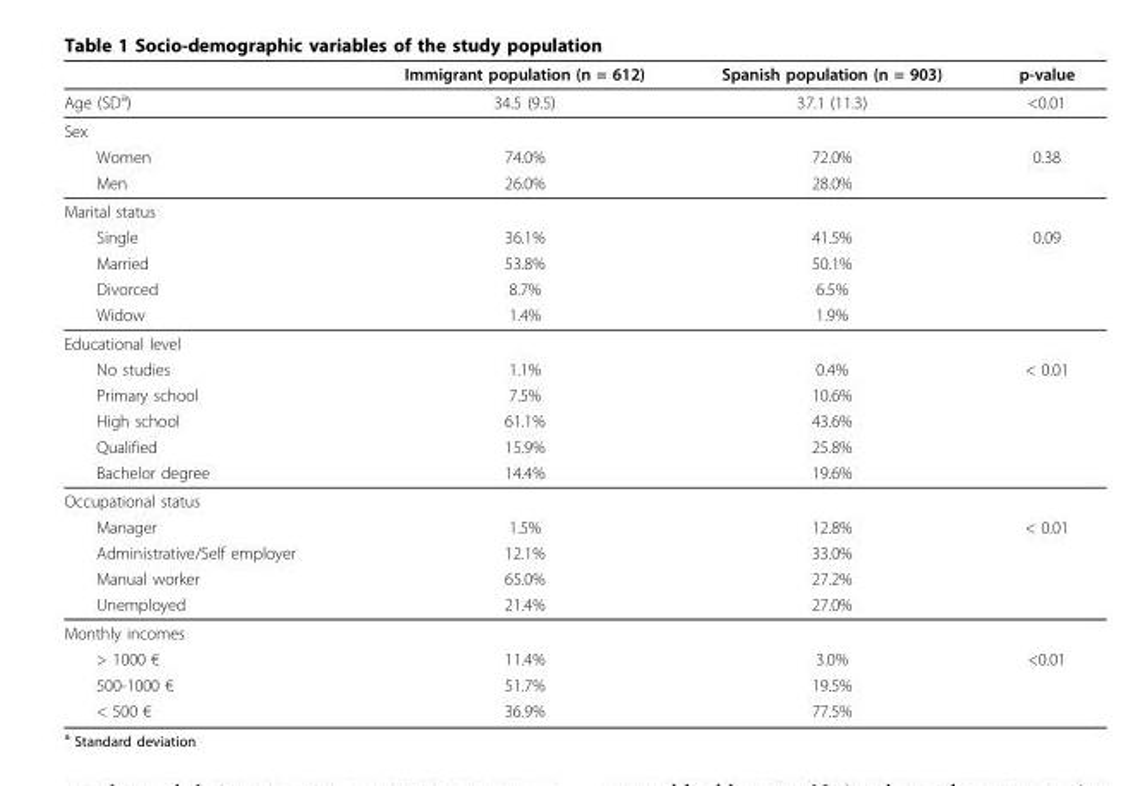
<table><thead><tr><td></td><td>Immigrant population (n = 612)</td><td>Spanish population (n = 903)</td><td>p-value</td></tr></thead><tbody><tr><td>Age (SD<sup>a</sup>)</td><td>34.5 (9.5)</td><td>37.1 (11.3)</td><td>&lt;0.01</td></tr><tr><td colspan="4">Sex</td></tr><tr><td>Women</td><td>74.0%</td><td>72.0%</td><td>0.38</td></tr><tr><td>Men</td><td>26.0%</td><td>28.0%</td><td></td></tr><tr><td colspan="4">Marital status</td></tr><tr><td>Single</td><td>36.1%</td><td>41.5%</td><td>0.09</td></tr><tr><td>Married</td><td>53.8%</td><td>50.1%</td><td></td></tr><tr><td>Divorced</td><td>8.7%</td><td>6.5%</td><td></td></tr><tr><td>Widow</td><td>1.4%</td><td>1.9%</td><td></td></tr><tr><td colspan="4">Educational level</td></tr><tr><td>No studies</td><td>1.1%</td><td>0.4%</td><td>&lt; 0.01</td></tr><tr><td>Primary school</td><td>7.5%</td><td>10.6%</td><td></td></tr><tr><td>High school</td><td>61.1%</td><td>43.6%</td><td></td></tr><tr><td>Qualified</td><td>15.9%</td><td>25.8%</td><td></td></tr><tr><td>Bachelor degree</td><td>14.4%</td><td>19.6%</td><td></td></tr><tr><td colspan="4">Occupational status</td></tr><tr><td>Manager</td><td>1.5%</td><td>12.8%</td><td>&lt; 0.01</td></tr><tr><td>Administrative/Self employer</td><td>12.1%</td><td>33.0%</td><td></td></tr><tr><td>Manual worker</td><td>65.0%</td><td>27.2%</td><td></td></tr><tr><td>Unemployed</td><td>21.4%</td><td>27.0%</td><td></td></tr><tr><td colspan="4">Monthly incomes</td></tr><tr><td>&gt; 1000 €</td><td>11.4%</td><td>3.0%</td><td>&lt;0.01</td></tr><tr><td>500-1000 €</td><td>51.7%</td><td>19.5%</td><td></td></tr><tr><td>&lt; 500 €</td><td>36.9%</td><td>77.5%</td><td></td></tr></tbody></table>